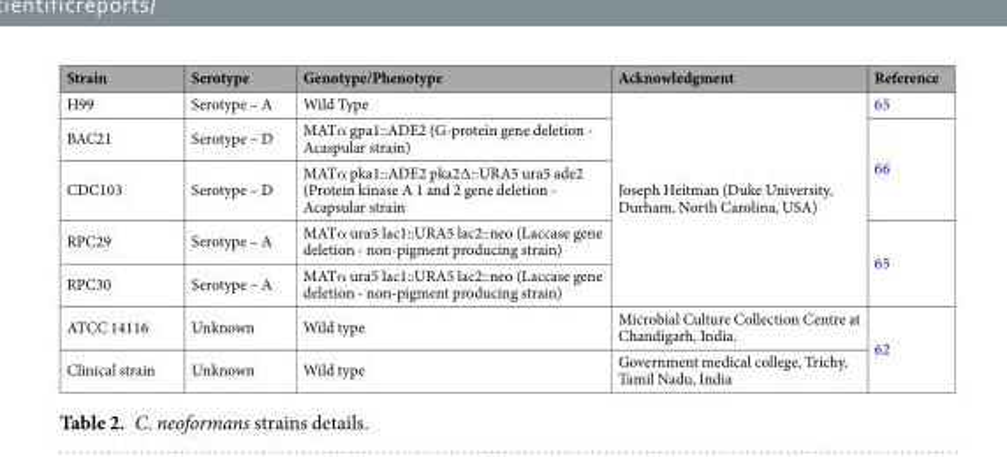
<table><thead><tr><td>Strain</td><td>Serotype</td><td>Genotype/Phenotype</td><td>Acknowledgment</td><td>Reference</td></tr></thead><tbody><tr><td>H99</td><td>Serotype – A</td><td>Wild Type</td><td rowspan="5">Joseph Heitman (Duke University, Durham, North Carolina, USA)</td><td>65</td></tr><tr><td>BAC21</td><td>Serotype – D</td><td>MATα gpa1::ADE2 (G-protein gene deletion - Acaspular strain)</td><td rowspan="2">66</td></tr><tr><td>CDC103</td><td>Serotype – D</td><td>MATα pka1::ADE2 pka2∆::URA5 ura5 ade2 (Protein kinase A 1 and 2 gene deletion - Acapsular strain</td></tr><tr><td>RPC29</td><td>Serotype – A</td><td>MATα ura5 lac1::URA5 lac2::neo (Laccase gene deletion - non-pigment producing strain)</td><td rowspan="2">65</td></tr><tr><td>RPC30</td><td>Serotype – A</td><td>MATα ura5 lac1::URA5 lac2::neo (Laccase gene deletion - non-pigment producing strain)</td></tr><tr><td>ATCC 14116</td><td>Unknown</td><td>Wild type</td><td>Microbial Culture Collection Centre at Chandigarh, India.</td><td rowspan="2">62</td></tr><tr><td>Clinical strain</td><td>Unknown</td><td>Wild type</td><td>Government medical college, Trichy, Tamil Nadu, India</td></tr></tbody></table>